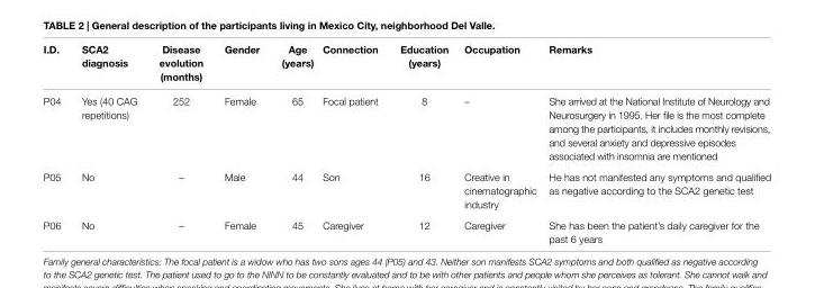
<table><thead><tr><td>i.D.</td><td>sca2 diagnosis</td><td>Disease evolution (months)</td><td>gender</td><td>age (years)</td><td>connection</td><td>education (years)</td><td>Occupation</td><td>remarks</td></tr></thead><tbody><tr><td>P04</td><td>Yes (40 CAG repetitions)</td><td>252</td><td>Female</td><td>65</td><td>Focal patient</td><td>8</td><td>–</td><td>She arrived at the National Institute of Neurology and Neurosurgery in 1995. Her file is the most complete among the participants, it includes monthly revisions, and several anxiety and depressive episodes associated with insomnia are mentioned</td></tr><tr><td>P05</td><td>No</td><td>–</td><td>Male</td><td>44</td><td>Son</td><td>16</td><td>Creative in cinematographic industry</td><td>He has not manifested any symptoms and qualified as negative according to the SCA2 genetic test</td></tr><tr><td>P06</td><td>No</td><td>–</td><td>Female</td><td>45</td><td>Caregiver</td><td>12</td><td>Caregiver</td><td>She has been the patient’s daily caregiver for the past 6 years</td></tr></tbody></table>